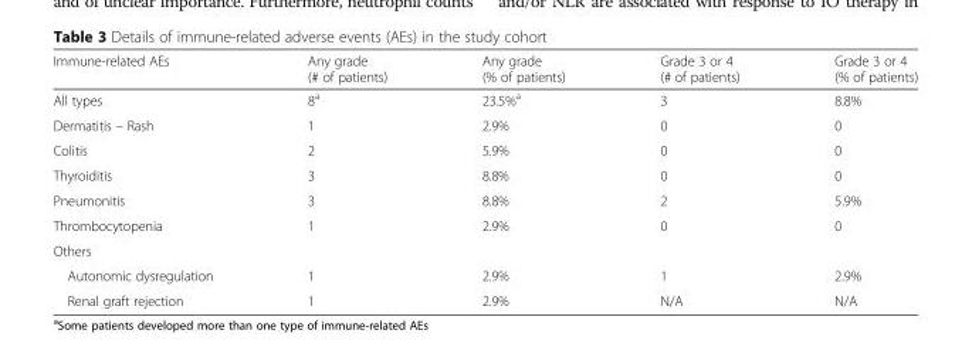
<table><thead><tr><td>Immune-related AEs</td><td>Any grade (# of patients)</td><td>Any grade (% of patients)</td><td>Grade 3 or 4 (# of patients)</td><td>Grade 3 or 4 (% of patients)</td></tr></thead><tbody><tr><td>All types</td><td>8<sup>a</sup></td><td>23.5%<sup>a</sup></td><td>3</td><td>8.8%</td></tr><tr><td>Dermatitis – Rash</td><td>1</td><td>2.9%</td><td>0</td><td>0</td></tr><tr><td>Colitis</td><td>2</td><td>5.9%</td><td>0</td><td>0</td></tr><tr><td>Thyroiditis</td><td>3</td><td>8.8%</td><td>0</td><td>0</td></tr><tr><td>Pneumonitis</td><td>3</td><td>8.8%</td><td>2</td><td>5.9%</td></tr><tr><td>Thrombocytopenia</td><td>1</td><td>2.9%</td><td>0</td><td>0</td></tr><tr><td colspan="5">Others</td></tr><tr><td>Autonomic dysregulation</td><td>1</td><td>2.9%</td><td>1</td><td>2.9%</td></tr><tr><td>Renal graft rejection</td><td>1</td><td>2.9%</td><td>N/A</td><td>N/A</td></tr></tbody></table>